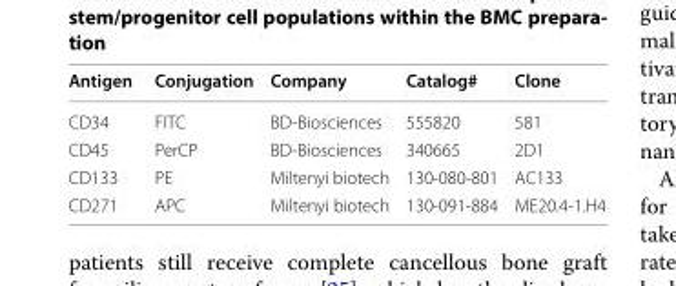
<table><thead><tr><td>Antigen</td><td>Conjugation</td><td>Company</td><td>Catalog#</td><td>Clone</td></tr></thead><tbody><tr><td>CD34</td><td>FITC</td><td>BD-Biosciences</td><td>555820</td><td>581</td></tr><tr><td>CD45</td><td>PerCP</td><td>BD-Biosciences</td><td>340665</td><td>2D1</td></tr><tr><td>CD133</td><td>PE</td><td>Miltenyi biotech</td><td>130-080-801</td><td>AC133</td></tr><tr><td>CD271</td><td>APC</td><td>Miltenyi biotech</td><td>130-091-884</td><td>ME20.4-1.H4</td></tr></tbody></table>